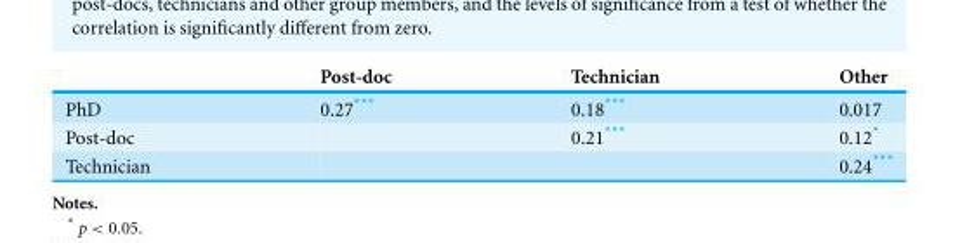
<table><thead><tr><td></td><td>Post-doc</td><td>Technician</td><td>Other</td></tr></thead><tbody><tr><td>PhD</td><td>0.27***</td><td>0.18***</td><td>0.017</td></tr><tr><td>Post-doc</td><td></td><td>0.21***</td><td>0.12*</td></tr><tr><td>Technician</td><td></td><td></td><td>0.24***</td></tr></tbody></table>